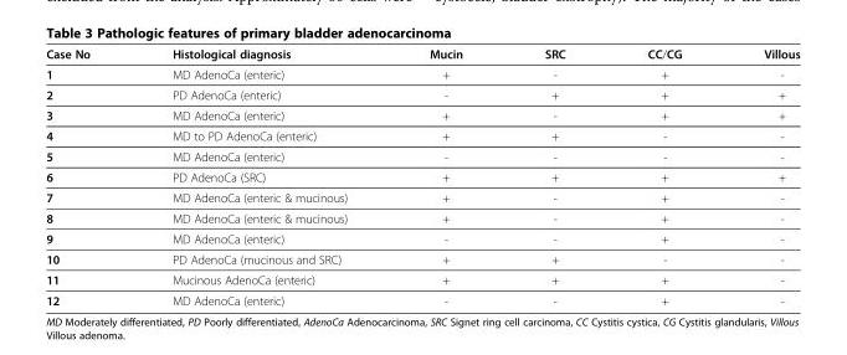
<table><thead><tr><td>Case No</td><td>Histological diagnosis</td><td>Mucin</td><td>SRC</td><td>CC/CG</td><td>Villous</td></tr></thead><tbody><tr><td>1</td><td>MD AdenoCa (enteric)</td><td>+</td><td>-</td><td>+</td><td>-</td></tr><tr><td>2</td><td>PD AdenoCa (enteric)</td><td>-</td><td>+</td><td>+</td><td>+</td></tr><tr><td>3</td><td>MD AdenoCa (enteric)</td><td>+</td><td>-</td><td>+</td><td>+</td></tr><tr><td>4</td><td>MD to PD AdenoCa (enteric)</td><td>+</td><td>+</td><td>-</td><td>-</td></tr><tr><td>5</td><td>MD AdenoCa (enteric)</td><td>-</td><td>-</td><td>-</td><td>-</td></tr><tr><td>6</td><td>PD AdenoCa (SRC)</td><td>+</td><td>+</td><td>+</td><td>+</td></tr><tr><td>7</td><td>MD AdenoCa (enteric &amp; mucinous)</td><td>+</td><td>-</td><td>+</td><td>-</td></tr><tr><td>8</td><td>MD AdenoCa (enteric &amp; mucinous)</td><td>+</td><td>-</td><td>+</td><td>-</td></tr><tr><td>9</td><td>MD AdenoCa (enteric)</td><td>-</td><td>-</td><td>+</td><td>-</td></tr><tr><td>10</td><td>PD AdenoCa (mucinous and SRC)</td><td>+</td><td>+</td><td>-</td><td>-</td></tr><tr><td>11</td><td>Mucinous AdenoCa (enteric)</td><td>+</td><td>+</td><td>+</td><td>-</td></tr><tr><td>12</td><td>MD AdenoCa (enteric)</td><td>-</td><td>-</td><td>+</td><td>-</td></tr></tbody></table>